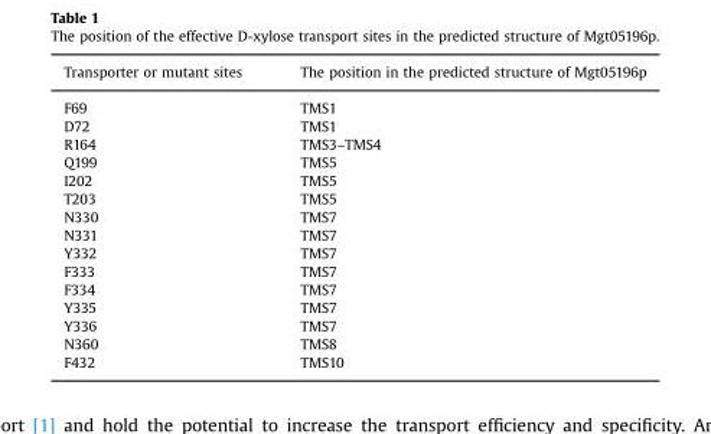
<table><thead><tr><td>Transporter or mutant sites</td><td>The position in the predicted structure of Mgt05196p</td></tr></thead><tbody><tr><td>F69</td><td>TMS1</td></tr><tr><td>D72</td><td>TMS1</td></tr><tr><td>R164</td><td>TMS3–TMS4</td></tr><tr><td>Q199</td><td>TMS5</td></tr><tr><td>I202</td><td>TMS5</td></tr><tr><td>T203</td><td>TMS5</td></tr><tr><td>N330</td><td>TMS7</td></tr><tr><td>N331</td><td>TMS7</td></tr><tr><td>Y332</td><td>TMS7</td></tr><tr><td>F333</td><td>TMS7</td></tr><tr><td>F334</td><td>TMS7</td></tr><tr><td>Y335</td><td>TMS7</td></tr><tr><td>Y336</td><td>TMS7</td></tr><tr><td>N360</td><td>TMS8</td></tr><tr><td>F432</td><td>TMS10</td></tr></tbody></table>